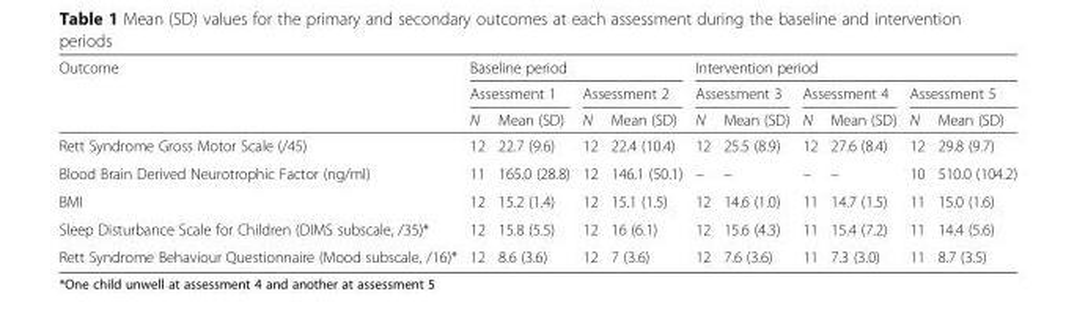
<table><thead><tr><td rowspan="3">Outcome</td><td colspan="4">Baseline period</td><td colspan="6">Intervention period</td></tr><tr><td colspan="2">Assessment 1</td><td colspan="2">Assessment 2</td><td colspan="2">Assessment 3</td><td colspan="2">Assessment 4</td><td colspan="2">Assessment 5</td></tr><tr><td>N</td><td>Mean (SD)</td><td>N</td><td>Mean (SD)</td><td>N</td><td>Mean (SD)</td><td>N</td><td>Mean (SD)</td><td>N</td><td>Mean (SD)</td></tr></thead><tbody><tr><td>Rett Syndrome Gross Motor Scale (/45)</td><td>12</td><td>22.7 (9.6)</td><td>12</td><td>22.4 (10.4)</td><td>12</td><td>25.5 (8.9)</td><td>12</td><td>27.6 (8.4)</td><td>12</td><td>29.8 (9.7)</td></tr><tr><td>Blood Brain Derived Neurotrophic Factor (ng/ml)</td><td>11</td><td>165.0 (28.8)</td><td>12</td><td>146.1 (50.1)</td><td>–</td><td>–</td><td>–</td><td>–</td><td>10</td><td>510.0 (104.2)</td></tr><tr><td>BMI</td><td>12</td><td>15.2 (1.4)</td><td>12</td><td>15.1 (1.5)</td><td>12</td><td>14.6 (1.0)</td><td>11</td><td>14.7 (1.5)</td><td>11</td><td>15.0 (1.6)</td></tr><tr><td>Sleep Disturbance Scale for Children (DIMS subscale, /35)*</td><td>12</td><td>15.8 (5.5)</td><td>12</td><td>16 (6.1)</td><td>12</td><td>15.6 (4.3)</td><td>11</td><td>15.4 (7.2)</td><td>11</td><td>14.4 (5.6)</td></tr><tr><td>Rett Syndrome Behaviour Questionnaire (Mood subscale, /16)*</td><td>12</td><td>8.6 (3.6)</td><td>12</td><td>7 (3.6)</td><td>12</td><td>7.6 (3.6)</td><td>11</td><td>7.3 (3.0)</td><td>11</td><td>8.7 (3.5)</td></tr></tbody></table>